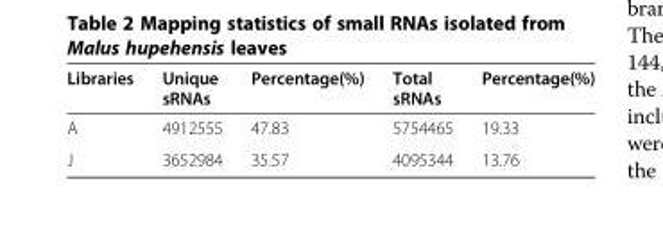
<table><thead><tr><td>Libraries</td><td>Unique sRNAs</td><td>Percentage(%)</td><td>Total sRNAs</td><td>Percentage(%)</td></tr></thead><tbody><tr><td>A</td><td>4912555</td><td>47.83</td><td>5754465</td><td>19.33</td></tr><tr><td>J</td><td>3652984</td><td>35.57</td><td>4095344</td><td>13.76</td></tr></tbody></table>